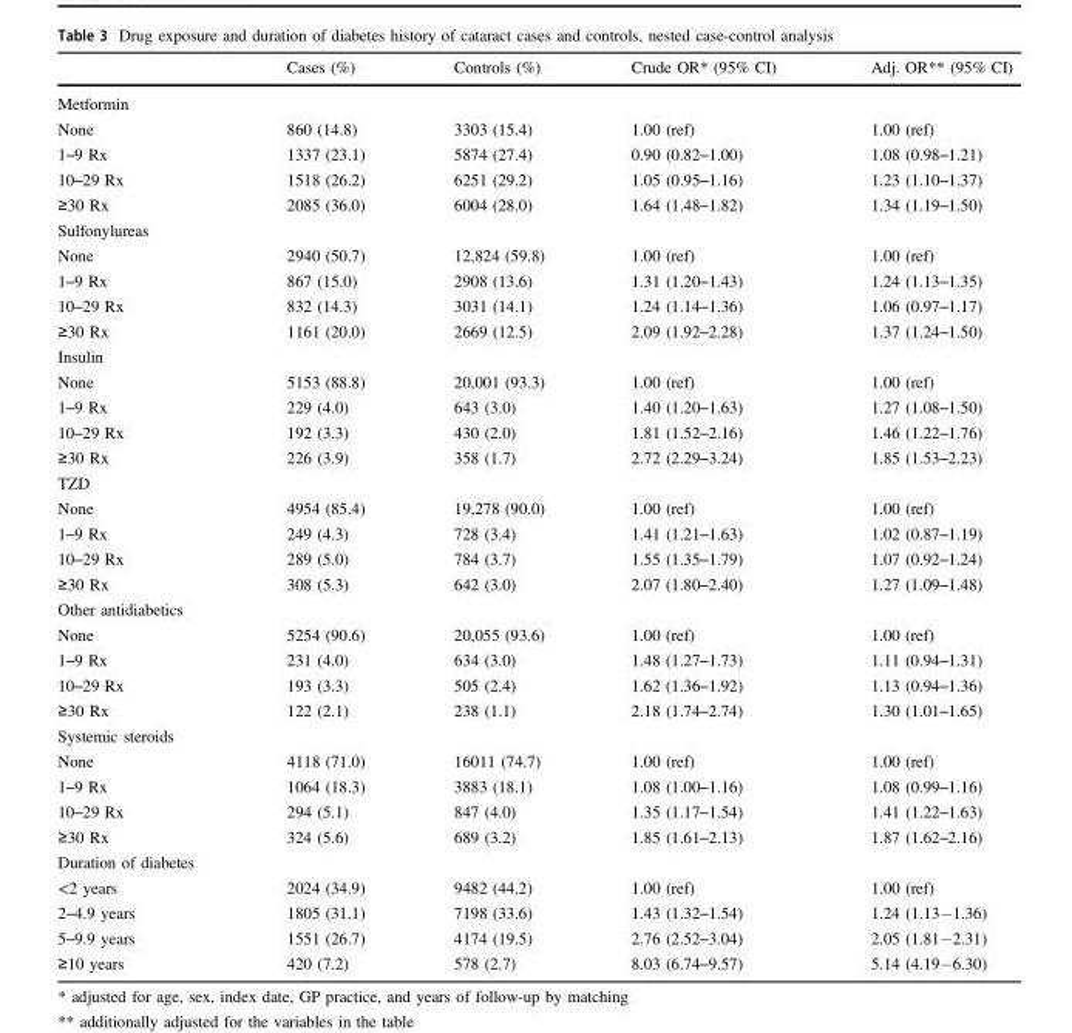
<table><thead><tr><td></td><td>Cases (%)</td><td>Controls (%)</td><td>Crude OR* (95% CI)</td><td>Adj. OR** (95% CI)</td></tr></thead><tbody><tr><td colspan="5">Metformin</td></tr><tr><td>None</td><td>860 (14.8)</td><td>3303 (15.4)</td><td>1.00 (ref)</td><td>1.00 (ref)</td></tr><tr><td>1–9 Rx</td><td>1337 (23.1)</td><td>5874 (27.4)</td><td>0.90 (0.82–1.00)</td><td>1.08 (0.98–1.21)</td></tr><tr><td>10–29 Rx</td><td>1518 (26.2)</td><td>6251 (29.2)</td><td>1.05 (0.95–1.16)</td><td>1.23 (1.10–1.37)</td></tr><tr><td>≥30 Rx</td><td>2085 (36.0)</td><td>6004 (28.0)</td><td>1.64 (1.48–1.82)</td><td>1.34 (1.19–1.50)</td></tr><tr><td colspan="5">Sulfonylureas</td></tr><tr><td>None</td><td>2940 (50.7)</td><td>12,824 (59.8)</td><td>1.00 (ref)</td><td>1.00 (ref)</td></tr><tr><td>1–9 Rx</td><td>867 (15.0)</td><td>2908 (13.6)</td><td>1.31 (1.20–1.43)</td><td>1.24 (1.13–1.35)</td></tr><tr><td>10–29 Rx</td><td>832 (14.3)</td><td>3031 (14.1)</td><td>1.24 (1.14–1.36)</td><td>1.06 (0.97–1.17)</td></tr><tr><td>≥30 Rx</td><td>1161 (20.0)</td><td>2669 (12.5)</td><td>2.09 (1.92–2.28)</td><td>1.37 (1.24–1.50)</td></tr><tr><td colspan="5">Insulin</td></tr><tr><td>None</td><td>5153 (88.8)</td><td>20,001 (93.3)</td><td>1.00 (ref)</td><td>1.00 (ref)</td></tr><tr><td>1–9 Rx</td><td>229 (4.0)</td><td>643 (3.0)</td><td>1.40 (1.20–1.63)</td><td>1.27 (1.08–1.50)</td></tr><tr><td>10–29 Rx</td><td>192 (3.3)</td><td>430 (2.0)</td><td>1.81 (1.52–2.16)</td><td>1.46 (1.22–1.76)</td></tr><tr><td>≥30 Rx</td><td>226 (3.9)</td><td>358 (1.7)</td><td>2.72 (2.29–3.24)</td><td>1.85 (1.53–2.23)</td></tr><tr><td colspan="5">TZD</td></tr><tr><td>None</td><td>4954 (85.4)</td><td>19,278 (90.0)</td><td>1.00 (ref)</td><td>1.00 (ref)</td></tr><tr><td>1–9 Rx</td><td>249 (4.3)</td><td>728 (3.4)</td><td>1.41 (1.21–1.63)</td><td>1.02 (0.87–1.19)</td></tr><tr><td>10–29 Rx</td><td>289 (5.0)</td><td>784 (3.7)</td><td>1.55 (1.35–1.79)</td><td>1.07 (0.92–1.24)</td></tr><tr><td>≥30 Rx</td><td>308 (5.3)</td><td>642 (3.0)</td><td>2.07 (1.80–2.40)</td><td>1.27 (1.09–1.48)</td></tr><tr><td colspan="5">Other antidiabetics</td></tr><tr><td>None</td><td>5254 (90.6)</td><td>20,055 (93.6)</td><td>1.00 (ref)</td><td>1.00 (ref)</td></tr><tr><td>1–9 Rx</td><td>231 (4.0)</td><td>634 (3.0)</td><td>1.48 (1.27–1.73)</td><td>1.11 (0.94–1.31)</td></tr><tr><td>10–29 Rx</td><td>193 (3.3)</td><td>505 (2.4)</td><td>1.62 (1.36–1.92)</td><td>1.13 (0.94–1.36)</td></tr><tr><td>≥30 Rx</td><td>122 (2.1)</td><td>238 (1.1)</td><td>2.18 (1.74–2.74)</td><td>1.30 (1.01–1.65)</td></tr><tr><td colspan="5">Systemic steroids</td></tr><tr><td>None</td><td>4118 (71.0)</td><td>16011 (74.7)</td><td>1.00 (ref)</td><td>1.00 (ref)</td></tr><tr><td>1–9 Rx</td><td>1064 (18.3)</td><td>3883 (18.1)</td><td>1.08 (1.00–1.16)</td><td>1.08 (0.99–1.16)</td></tr><tr><td>10–29 Rx</td><td>294 (5.1)</td><td>847 (4.0)</td><td>1.35 (1.17–1.54)</td><td>1.41 (1.22–1.63)</td></tr><tr><td>≥30 Rx</td><td>324 (5.6)</td><td>689 (3.2)</td><td>1.85 (1.61–2.13)</td><td>1.87 (1.62–2.16)</td></tr><tr><td colspan="5">Duration of diabetes</td></tr><tr><td>&lt;2 years</td><td>2024 (34.9)</td><td>9482 (44.2)</td><td>1.00 (ref)</td><td>1.00 (ref)</td></tr><tr><td>2–4.9 years</td><td>1805 (31.1)</td><td>7198 (33.6)</td><td>1.43 (1.32–1.54)</td><td>1.24 (1.13−1.36)</td></tr><tr><td>5–9.9 years</td><td>1551 (26.7)</td><td>4174 (19.5)</td><td>2.76 (2.52–3.04)</td><td>2.05 (1.81−2.31)</td></tr><tr><td>≥10 years</td><td>420 (7.2)</td><td>578 (2.7)</td><td>8.03 (6.74–9.57)</td><td>5.14 (4.19−6.30)</td></tr></tbody></table>